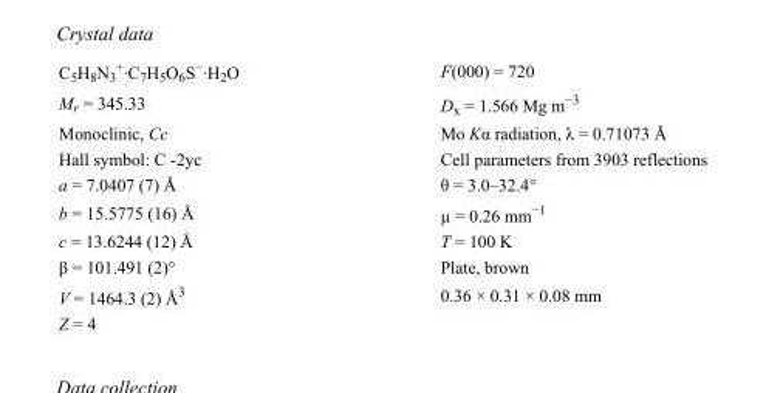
<table><tbody><tr><td>C<sub>5</sub>H<sub>8</sub>N<sub>3</sub> <sup>+</sup>·C<sub>7</sub>H<sub>5</sub>O<sub>6</sub>S<sup>−</sup>·H<sub>2</sub>O</td><td>F(000) = 720</td></tr><tr><td>M<sub>r</sub> = 345.33</td><td>D<sub>x</sub> = 1.566 Mg m<sup>−3</sup></td></tr><tr><td>Monoclinic, Cc</td><td>Mo Kα radiation, λ = 0.71073 Å</td></tr><tr><td>Hall symbol: C -2yc</td><td>Cell parameters from 3903 reflections</td></tr><tr><td>a = 7.0407 (7) Å</td><td>θ = 3.0–32.4°</td></tr><tr><td>b = 15.5775 (16) Å</td><td>µ = 0.26 mm<sup>−1</sup></td></tr><tr><td>c = 13.6244 (12) Å</td><td>T = 100 K</td></tr><tr><td>β = 101.491 (2)°</td><td>Plate, brown</td></tr><tr><td>V = 1464.3 (2) Å<sup>3</sup></td><td>0.36 × 0.31 × 0.08 mm</td></tr><tr><td>Z = 4</td><td></td></tr></tbody></table>